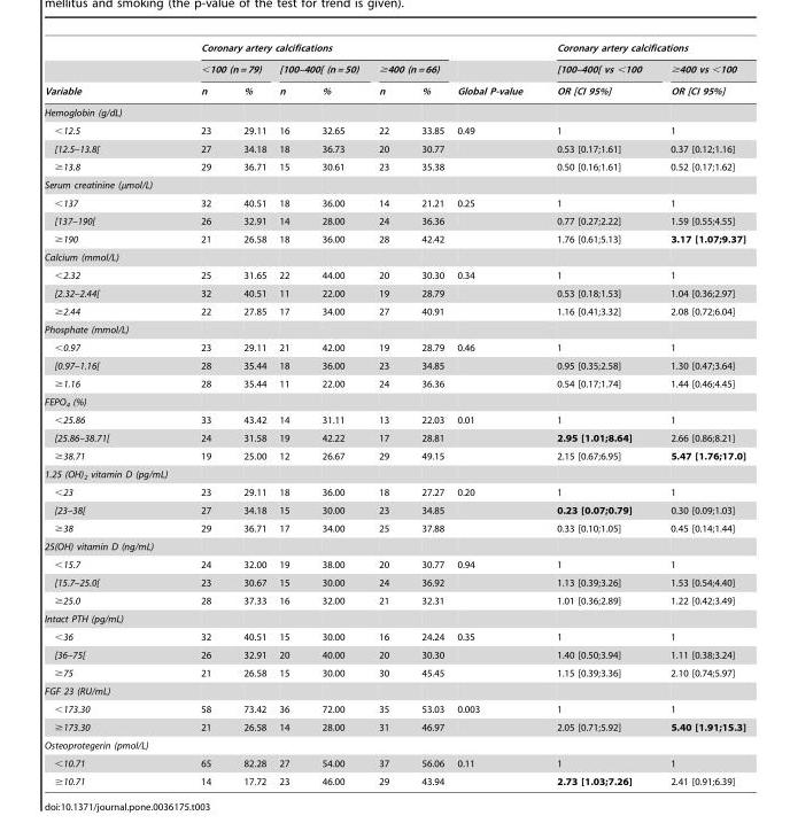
<table><thead><tr><td rowspan="3">Variable</td><td colspan="6">Coronary artery calcifications</td><td rowspan="3">Global P-value</td><td colspan="2">Coronary artery calcifications</td></tr><tr><td colspan="2">&lt;100 (n = 79)</td><td colspan="2">[100–400[ (n = 50)</td><td colspan="2">≥400 (n = 66)</td><td rowspan="2">[100–400[ vs &lt;100 OR [CI 95%]</td><td rowspan="2">≥400 vs &lt;100 OR [CI 95%]</td></tr><tr><td>n</td><td>%</td><td>n</td><td>%</td><td>n</td><td>%</td></tr></thead><tbody><tr><td colspan="10">Hemoglobin (g/dL)</td></tr><tr><td>&lt;12.5</td><td>23</td><td>29.11</td><td>16</td><td>32.65</td><td>22</td><td>33.85</td><td>0.49</td><td>1</td><td>1</td></tr><tr><td>[12.5–13.8[</td><td>27</td><td>34.18</td><td>18</td><td>36.73</td><td>20</td><td>30.77</td><td></td><td>0.53 [0.17;1.61]</td><td>0.37 [0.12;1.16]</td></tr><tr><td>≥13.8</td><td>29</td><td>36.71</td><td>15</td><td>30.61</td><td>23</td><td>35.38</td><td></td><td>0.50 [0.16;1.61]</td><td>0.52 [0.17;1.62]</td></tr><tr><td colspan="10">Serum creatinine (µmol/L)</td></tr><tr><td>&lt;137</td><td>32</td><td>40.51</td><td>18</td><td>36.00</td><td>14</td><td>21.21</td><td>0.25</td><td>1</td><td>1</td></tr><tr><td>[137–190[</td><td>26</td><td>32.91</td><td>14</td><td>28.00</td><td>24</td><td>36.36</td><td></td><td>0.77 [0.27;2.22]</td><td>1.59 [0.55;4.55]</td></tr><tr><td>≥190</td><td>21</td><td>26.58</td><td>18</td><td>36.00</td><td>28</td><td>42.42</td><td></td><td>1.76 [0.61;5.13]</td><td>3.17 [1.07;9.37]</td></tr><tr><td colspan="10">Calcium (mmol/L)</td></tr><tr><td>&lt;2.32</td><td>25</td><td>31.65</td><td>22</td><td>44.00</td><td>20</td><td>30.30</td><td>0.34</td><td>1</td><td>1</td></tr><tr><td>[2.32–2.44[</td><td>32</td><td>40.51</td><td>11</td><td>22.00</td><td>19</td><td>28.79</td><td></td><td>0.53 [0.18;1.53]</td><td>1.04 [0.36;2.97]</td></tr><tr><td>≥2.44</td><td>22</td><td>27.85</td><td>17</td><td>34.00</td><td>27</td><td>40.91</td><td></td><td>1.16 [0.41;3.32]</td><td>2.08 [0.72;6.04]</td></tr><tr><td colspan="10">Phosphate (mmol/L)</td></tr><tr><td>&lt;0.97</td><td>23</td><td>29.11</td><td>21</td><td>42.00</td><td>19</td><td>28.79</td><td>0.46</td><td>1</td><td>1</td></tr><tr><td>[0.97–1.16[</td><td>28</td><td>35.44</td><td>18</td><td>36.00</td><td>23</td><td>34.85</td><td></td><td>0.95 [0.35;2.58]</td><td>1.30 [0.47;3.64]</td></tr><tr><td>≥1.16</td><td>28</td><td>35.44</td><td>11</td><td>22.00</td><td>24</td><td>36.36</td><td></td><td>0.54 [0.17;1.74]</td><td>1.44 [0.46;4.45]</td></tr><tr><td colspan="10">FEPO<sub>4</sub> (%)</td></tr><tr><td>&lt;25.86</td><td>33</td><td>43.42</td><td>14</td><td>31.11</td><td>13</td><td>22.03</td><td>0.01</td><td>1</td><td>1</td></tr><tr><td>[25.86–38.71[</td><td>24</td><td>31.58</td><td>19</td><td>42.22</td><td>17</td><td>28.81</td><td></td><td>2.95 [1.01;8.64]</td><td>2.66 [0.86;8.21]</td></tr><tr><td>≥38.71</td><td>19</td><td>25.00</td><td>12</td><td>26.67</td><td>29</td><td>49.15</td><td></td><td>2.15 [0.67;6.95]</td><td>5.47 [1.76;17.0]</td></tr><tr><td colspan="10">1.25 (OH)<sub>2</sub> vitamin D (pg/mL)</td></tr><tr><td>&lt;23</td><td>23</td><td>29.11</td><td>18</td><td>36.00</td><td>18</td><td>27.27</td><td>0.20</td><td>1</td><td>1</td></tr><tr><td>[23–38[</td><td>27</td><td>34.18</td><td>15</td><td>30.00</td><td>23</td><td>34.85</td><td></td><td>0.23 [0.07;0.79]</td><td>0.30 [0.09;1.03]</td></tr><tr><td>≥38</td><td>29</td><td>36.71</td><td>17</td><td>34.00</td><td>25</td><td>37.88</td><td></td><td>0.33 [0.10;1.05]</td><td>0.45 [0.14;1.44]</td></tr><tr><td colspan="10">25(OH) vitamin D (ng/mL)</td></tr><tr><td>&lt;15.7</td><td>24</td><td>32.00</td><td>19</td><td>38.00</td><td>20</td><td>30.77</td><td>0.94</td><td>1</td><td>1</td></tr><tr><td>[15.7–25.0[</td><td>23</td><td>30.67</td><td>15</td><td>30.00</td><td>24</td><td>36.92</td><td></td><td>1.13 [0.39;3.26]</td><td>1.53 [0.54;4.40]</td></tr><tr><td>≥25.0</td><td>28</td><td>37.33</td><td>16</td><td>32.00</td><td>21</td><td>32.31</td><td></td><td>1.01 [0.36;2.89]</td><td>1.22 [0.42;3.49]</td></tr><tr><td colspan="10">Intact PTH (pg/mL)</td></tr><tr><td>&lt;36</td><td>32</td><td>40.51</td><td>15</td><td>30.00</td><td>16</td><td>24.24</td><td>0.35</td><td>1</td><td>1</td></tr><tr><td>[36–75[</td><td>26</td><td>32.91</td><td>20</td><td>40.00</td><td>20</td><td>30.30</td><td></td><td>1.40 [0.50;3.94]</td><td>1.11 [0.38;3.24]</td></tr><tr><td>≥75</td><td>21</td><td>26.58</td><td>15</td><td>30.00</td><td>30</td><td>45.45</td><td></td><td>1.15 [0.39;3.36]</td><td>2.10 [0.74;5.97]</td></tr><tr><td colspan="10">FGF 23 (RU/mL)</td></tr><tr><td>&lt;173.30</td><td>58</td><td>73.42</td><td>36</td><td>72.00</td><td>35</td><td>53.03</td><td>0.003</td><td>1</td><td>1</td></tr><tr><td>≥173.30</td><td>21</td><td>26.58</td><td>14</td><td>28.00</td><td>31</td><td>46.97</td><td></td><td>2.05 [0.71;5.92]</td><td>5.40 [1.91;15.3]</td></tr><tr><td colspan="10">Osteoprotegerin (pmol/L)</td></tr><tr><td>&lt;10.71</td><td>65</td><td>82.28</td><td>27</td><td>54.00</td><td>37</td><td>56.06</td><td>0.11</td><td>1</td><td>1</td></tr><tr><td>≥10.71</td><td>14</td><td>17.72</td><td>23</td><td>46.00</td><td>29</td><td>43.94</td><td></td><td>2.73 [1.03;7.26]</td><td>2.41 [0.91;6.39]</td></tr></tbody></table>